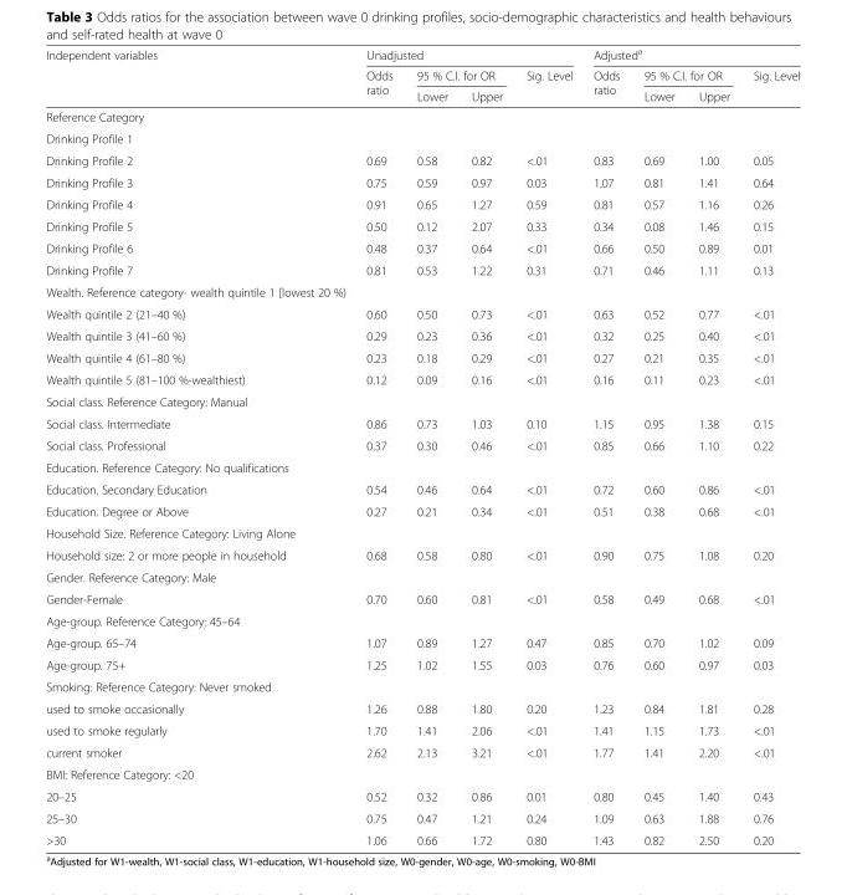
<table><thead><tr><td rowspan="3">Independent variables</td><td colspan="4">Unadjusted</td><td colspan="4">Adjusted<sup>a</sup></td></tr><tr><td rowspan="2">Odds ratio</td><td colspan="2">95 % C.I. for OR</td><td rowspan="2">Sig. Level</td><td rowspan="2">Odds ratio</td><td colspan="2">95 % C.I. for OR</td><td rowspan="2">Sig. Level</td></tr><tr><td>Lower</td><td>Upper</td><td>Lower</td><td>Upper</td></tr></thead><tbody><tr><td colspan="9">Reference Category</td></tr><tr><td colspan="9">Drinking Profile 1</td></tr><tr><td>Drinking Profile 2</td><td>0.69</td><td>0.58</td><td>0.82</td><td>&lt;.01</td><td>0.83</td><td>0.69</td><td>1.00</td><td>0.05</td></tr><tr><td>Drinking Profile 3</td><td>0.75</td><td>0.59</td><td>0.97</td><td>0.03</td><td>1.07</td><td>0.81</td><td>1.41</td><td>0.64</td></tr><tr><td>Drinking Profile 4</td><td>0.91</td><td>0.65</td><td>1.27</td><td>0.59</td><td>0.81</td><td>0.57</td><td>1.16</td><td>0.26</td></tr><tr><td>Drinking Profile 5</td><td>0.50</td><td>0.12</td><td>2.07</td><td>0.33</td><td>0.34</td><td>0.08</td><td>1.46</td><td>0.15</td></tr><tr><td>Drinking Profile 6</td><td>0.48</td><td>0.37</td><td>0.64</td><td>&lt;.01</td><td>0.66</td><td>0.50</td><td>0.89</td><td>0.01</td></tr><tr><td>Drinking Profile 7</td><td>0.81</td><td>0.53</td><td>1.22</td><td>0.31</td><td>0.71</td><td>0.46</td><td>1.11</td><td>0.13</td></tr><tr><td colspan="9">Wealth. Reference category- wealth quintile 1 [lowest 20 %)</td></tr><tr><td>Wealth quintile 2 (21–40 %)</td><td>0.60</td><td>0.50</td><td>0.73</td><td>&lt;.01</td><td>0.63</td><td>0.52</td><td>0.77</td><td>&lt;.01</td></tr><tr><td>Wealth quintile 3 (41–60 %)</td><td>0.29</td><td>0.23</td><td>0.36</td><td>&lt;.01</td><td>0.32</td><td>0.25</td><td>0.40</td><td>&lt;.01</td></tr><tr><td>Wealth quintile 4 (61–80 %)</td><td>0.23</td><td>0.18</td><td>0.29</td><td>&lt;.01</td><td>0.27</td><td>0.21</td><td>0.35</td><td>&lt;.01</td></tr><tr><td>Wealth quintile 5 (81–100 %-wealthiest)</td><td>0.12</td><td>0.09</td><td>0.16</td><td>&lt;.01</td><td>0.16</td><td>0.11</td><td>0.23</td><td>&lt;.01</td></tr><tr><td colspan="9">Social class. Reference Category: Manual</td></tr><tr><td>Social class. Intermediate</td><td>0.86</td><td>0.73</td><td>1.03</td><td>0.10</td><td>1.15</td><td>0.95</td><td>1.38</td><td>0.15</td></tr><tr><td>Social class. Professional</td><td>0.37</td><td>0.30</td><td>0.46</td><td>&lt;.01</td><td>0.85</td><td>0.66</td><td>1.10</td><td>0.22</td></tr><tr><td colspan="9">Education. Reference Category: No qualifications</td></tr><tr><td>Education. Secondary Education</td><td>0.54</td><td>0.46</td><td>0.64</td><td>&lt;.01</td><td>0.72</td><td>0.60</td><td>0.86</td><td>&lt;.01</td></tr><tr><td>Education. Degree or Above</td><td>0.27</td><td>0.21</td><td>0.34</td><td>&lt;.01</td><td>0.51</td><td>0.38</td><td>0.68</td><td>&lt;.01</td></tr><tr><td colspan="9">Household Size. Reference Category: Living Alone</td></tr><tr><td>Household size: 2 or more people in household</td><td>0.68</td><td>0.58</td><td>0.80</td><td>&lt;.01</td><td>0.90</td><td>0.75</td><td>1.08</td><td>0.20</td></tr><tr><td colspan="9">Gender. Reference Category: Male</td></tr><tr><td>Gender-Female</td><td>0.70</td><td>0.60</td><td>0.81</td><td>&lt;.01</td><td>0.58</td><td>0.49</td><td>0.68</td><td>&lt;.01</td></tr><tr><td colspan="9">Age-group. Reference Category: 45–64</td></tr><tr><td>Age-group. 65–74</td><td>1.07</td><td>0.89</td><td>1.27</td><td>0.47</td><td>0.85</td><td>0.70</td><td>1.02</td><td>0.09</td></tr><tr><td>Age-group. 75+</td><td>1.25</td><td>1.02</td><td>1.55</td><td>0.03</td><td>0.76</td><td>0.60</td><td>0.97</td><td>0.03</td></tr><tr><td colspan="9">Smoking: Reference Category: Never smoked</td></tr><tr><td>used to smoke occasionally</td><td>1.26</td><td>0.88</td><td>1.80</td><td>0.20</td><td>1.23</td><td>0.84</td><td>1.81</td><td>0.28</td></tr><tr><td>used to smoke regularly</td><td>1.70</td><td>1.41</td><td>2.06</td><td>&lt;.01</td><td>1.41</td><td>1.15</td><td>1.73</td><td>&lt;.01</td></tr><tr><td>current smoker</td><td>2.62</td><td>2.13</td><td>3.21</td><td>&lt;.01</td><td>1.77</td><td>1.41</td><td>2.20</td><td>&lt;.01</td></tr><tr><td colspan="9">BMI: Reference Category: &lt;20</td></tr><tr><td>20–25</td><td>0.52</td><td>0.32</td><td>0.86</td><td>0.01</td><td>0.80</td><td>0.45</td><td>1.40</td><td>0.43</td></tr><tr><td>25–30</td><td>0.75</td><td>0.47</td><td>1.21</td><td>0.24</td><td>1.09</td><td>0.63</td><td>1.88</td><td>0.76</td></tr><tr><td>&gt;30</td><td>1.06</td><td>0.66</td><td>1.72</td><td>0.80</td><td>1.43</td><td>0.82</td><td>2.50</td><td>0.20</td></tr></tbody></table>